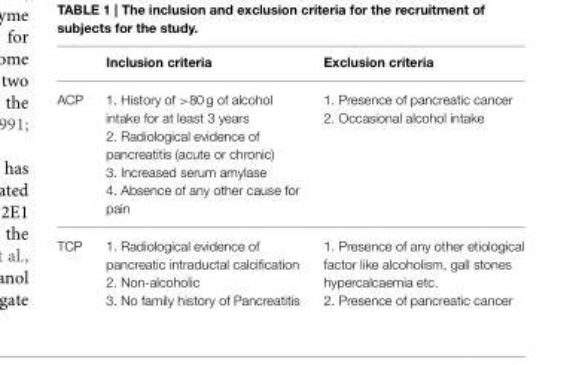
<table><thead><tr><td></td><td>Inclusion criteria</td><td>Exclusion criteria</td></tr></thead><tbody><tr><td>ACP</td><td>1. History of &gt;80 g of alcohol intake for at least 3 years 2. Radiological evidence of pancreatitis (acute or chronic) 3. Increased serum amylase 4. Absence of any other cause for pain</td><td>1. Presence of pancreatic cancer 2. Occasional alcohol intake</td></tr><tr><td>TCP</td><td>1. Radiological evidence of pancreatic intraductal calcification 2. Non-alcoholic 3. No family history of Pancreatitis</td><td>1. Presence of any other etiological factor like alcoholism, gall stones hypercalcaemia etc. 2. Presence of pancreatic cancer</td></tr></tbody></table>